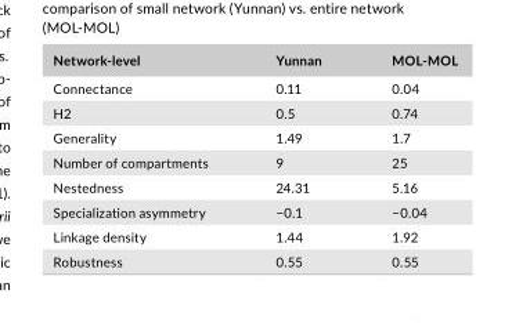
<table><thead><tr><td>Network- level</td><td>Yunnan</td><td>MOL- MOL</td></tr></thead><tbody><tr><td>Connectance</td><td>0.11</td><td>0.04</td></tr><tr><td>H2</td><td>0.5</td><td>0.74</td></tr><tr><td>Generality</td><td>1.49</td><td>1.7</td></tr><tr><td>Number of compartments</td><td>9</td><td>25</td></tr><tr><td>Nestedness</td><td>24.31</td><td>5.16</td></tr><tr><td>Specialization asymmetry</td><td>−0.1</td><td>−0.04</td></tr><tr><td>Linkage density</td><td>1.44</td><td>1.92</td></tr><tr><td>Robustness</td><td>0.55</td><td>0.55</td></tr></tbody></table>